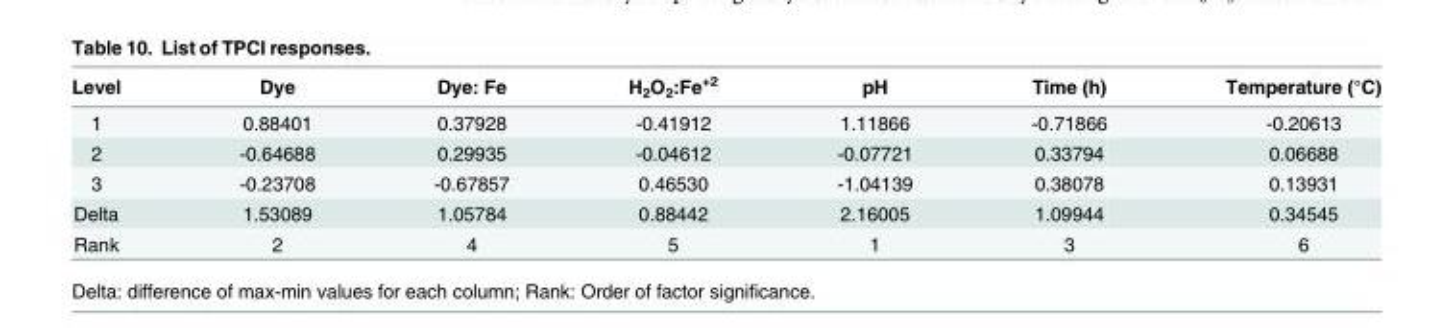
<table><thead><tr><td>Level</td><td>Dye</td><td>Dye: Fe</td><td>H<sub>2</sub>O<sub>2</sub>:Fe<sup>+2</sup></td><td>pH</td><td>Time (h)</td><td>Temperature (°C)</td></tr></thead><tbody><tr><td>1</td><td>0.88401</td><td>0.37928</td><td>-0.41912</td><td>1.11866</td><td>-0.71866</td><td>-0.20613</td></tr><tr><td>2</td><td>-0.64688</td><td>0.29935</td><td>-0.04612</td><td>-0.07721</td><td>0.33794</td><td>0.06688</td></tr><tr><td>3</td><td>-0.23708</td><td>-0.67857</td><td>0.46530</td><td>-1.04139</td><td>0.38078</td><td>0.13931</td></tr><tr><td>Delta</td><td>1.53089</td><td>1.05784</td><td>0.88442</td><td>2.16005</td><td>1.09944</td><td>0.34545</td></tr><tr><td>Rank</td><td>2</td><td>4</td><td>5</td><td>1</td><td>3</td><td>6</td></tr></tbody></table>